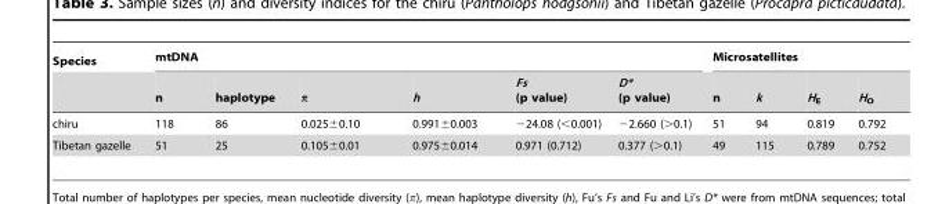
<table><thead><tr><td rowspan="2">Species</td><td colspan="6">mtDNA</td><td colspan="4">Microsatellites</td></tr><tr><td>n</td><td>haplotype</td><td>π</td><td>h</td><td>Fs (p value)</td><td>D* (p value)</td><td>n</td><td>k</td><td>H<sub>E</sub></td><td>H<sub>O</sub></td></tr></thead><tbody><tr><td>chiru</td><td>118</td><td>86</td><td>0.025±0.10</td><td>0.991±0.003</td><td>−24.08 (&lt;0.001)</td><td>−2.660 (&gt;0.1)</td><td>51</td><td>94</td><td>0.819</td><td>0.792</td></tr><tr><td>Tibetan gazelle</td><td>51</td><td>25</td><td>0.105±0.01</td><td>0.975±0.014</td><td>0.971 (0.712)</td><td>0.377 (&gt;0.1)</td><td>49</td><td>115</td><td>0.789</td><td>0.752</td></tr></tbody></table>